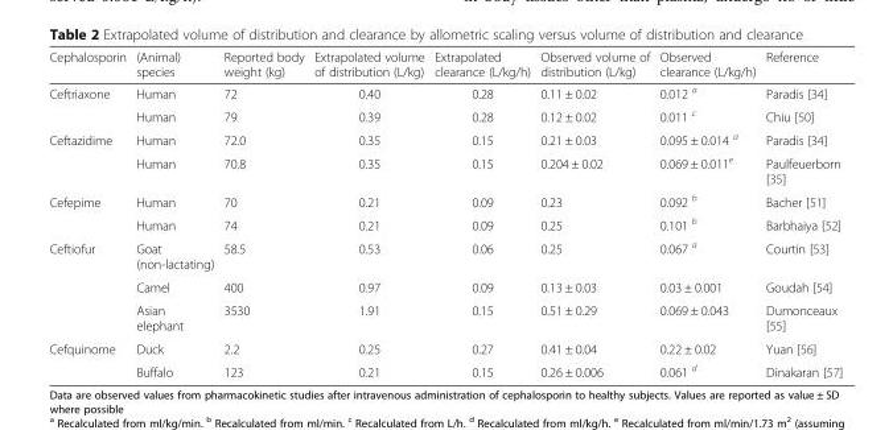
<table><thead><tr><td>Cephalosporin</td><td>(Animal) species</td><td>Reported body weight (kg)</td><td>Extrapolated volume of distribution (L/kg)</td><td>Extrapolated clearance (L/kg/h)</td><td>Observed volume of distribution (L/kg)</td><td>Observed clearance (L/kg/h)</td><td>Reference</td></tr></thead><tbody><tr><td rowspan="2">Ceftriaxone</td><td>Human</td><td>72</td><td>0.40</td><td>0.28</td><td>0.11 ± 0.02</td><td>0.012 <sup>a</sup></td><td>Paradis [34]</td></tr><tr><td>Human</td><td>79</td><td>0.39</td><td>0.28</td><td>0.12 ± 0.02</td><td>0.011 <sup>c</sup></td><td>Chiu [50]</td></tr><tr><td rowspan="2">Ceftazidime</td><td>Human</td><td>72.0</td><td>0.35</td><td>0.15</td><td>0.21 ± 0.03</td><td>0.095 ± 0.014 <sup>a</sup></td><td>Paradis [34]</td></tr><tr><td>Human</td><td>70.8</td><td>0.35</td><td>0.15</td><td>0.204 ± 0.02</td><td>0.069 ± 0.011<sup>e</sup></td><td>Paulfeuerborn [35]</td></tr><tr><td rowspan="2">Cefepime</td><td>Human</td><td>70</td><td>0.21</td><td>0.09</td><td>0.23</td><td>0.092 <sup>b</sup></td><td>Bacher [51]</td></tr><tr><td>Human</td><td>74</td><td>0.21</td><td>0.09</td><td>0.25</td><td>0.101 <sup>b</sup></td><td>Barbhaiya [52]</td></tr><tr><td rowspan="3">Ceftiofur</td><td>Goat (non-lactating)</td><td>58.5</td><td>0.53</td><td>0.06</td><td>0.25</td><td>0.067 <sup>a</sup></td><td>Courtin [53]</td></tr><tr><td>Camel</td><td>400</td><td>0.97</td><td>0.09</td><td>0.13 ± 0.03</td><td>0.03 ± 0.001</td><td>Goudah [54]</td></tr><tr><td>Asian elephant</td><td>3530</td><td>1.91</td><td>0.15</td><td>0.51 ± 0.29</td><td>0.069 ± 0.043</td><td>Dumonceaux [55]</td></tr><tr><td rowspan="2">Cefquinome</td><td>Duck</td><td>2.2</td><td>0.25</td><td>0.27</td><td>0.41 ± 0.04</td><td>0.22 ± 0.02</td><td>Yuan [56]</td></tr><tr><td>Buffalo</td><td>123</td><td>0.21</td><td>0.15</td><td>0.26 ± 0.006</td><td>0.061 <sup>d</sup></td><td>Dinakaran [57]</td></tr></tbody></table>